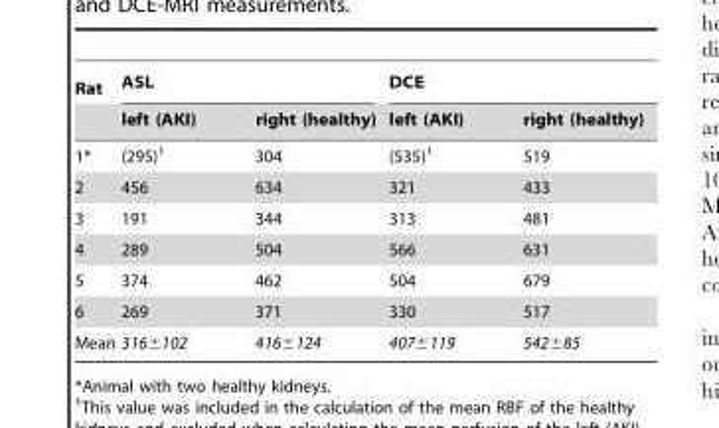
<table><thead><tr><td rowspan="2">Rat</td><td colspan="2">ASL</td><td colspan="2">DCE</td></tr><tr><td>left (AKI)</td><td>right (healthy)</td><td>left (AKI)</td><td>right (healthy)</td></tr></thead><tbody><tr><td>1*</td><td>(295)<sup>1</sup></td><td>304</td><td>(535)<sup>1</sup></td><td>519</td></tr><tr><td>2</td><td>456</td><td>634</td><td>321</td><td>433</td></tr><tr><td>3</td><td>191</td><td>344</td><td>313</td><td>481</td></tr><tr><td>4</td><td>289</td><td>504</td><td>566</td><td>631</td></tr><tr><td>5</td><td>374</td><td>462</td><td>504</td><td>679</td></tr><tr><td>6</td><td>269</td><td>371</td><td>330</td><td>517</td></tr><tr><td>Mean</td><td>316±102</td><td>416±124</td><td>407±119</td><td>542±85</td></tr></tbody></table>